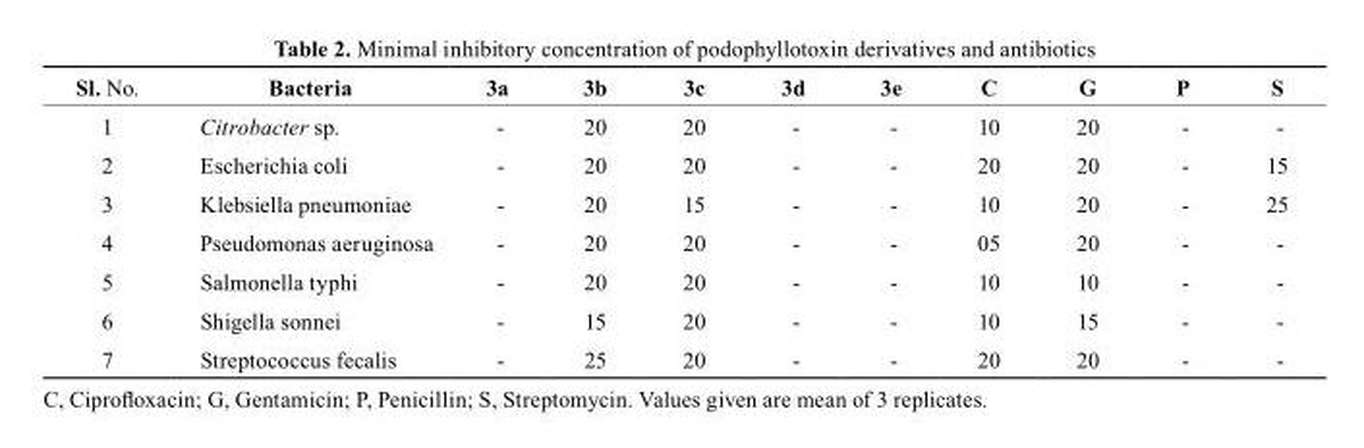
<table><thead><tr><td>sl. No.</td><td>bacteria</td><td>3a</td><td>3b</td><td>3c</td><td>3d</td><td>3e</td><td>c</td><td>G</td><td>P</td><td>s</td></tr></thead><tbody><tr><td>1</td><td>Citrobacter sp.</td><td>-</td><td>20</td><td>20</td><td>-</td><td>-</td><td>10</td><td>20</td><td>-</td><td>-</td></tr><tr><td>2</td><td>Escherichia coli</td><td>-</td><td>20</td><td>20</td><td>-</td><td>-</td><td>20</td><td>20</td><td>-</td><td>15</td></tr><tr><td>3</td><td>Klebsiella pneumoniae</td><td>-</td><td>20</td><td>15</td><td>-</td><td>-</td><td>10</td><td>20</td><td>-</td><td>25</td></tr><tr><td>4</td><td>Pseudomonas aeruginosa</td><td>-</td><td>20</td><td>20</td><td>-</td><td>-</td><td>05</td><td>20</td><td>-</td><td>-</td></tr><tr><td>5</td><td>Salmonella typhi</td><td>-</td><td>20</td><td>20</td><td>-</td><td>-</td><td>10</td><td>10</td><td>-</td><td>-</td></tr><tr><td>6</td><td>Shigella sonnei</td><td>-</td><td>15</td><td>20</td><td>-</td><td>-</td><td>10</td><td>15</td><td>-</td><td>-</td></tr><tr><td>7</td><td>Streptococcus fecalis</td><td>-</td><td>25</td><td>20</td><td>-</td><td>-</td><td>20</td><td>20</td><td>-</td><td>-</td></tr></tbody></table>